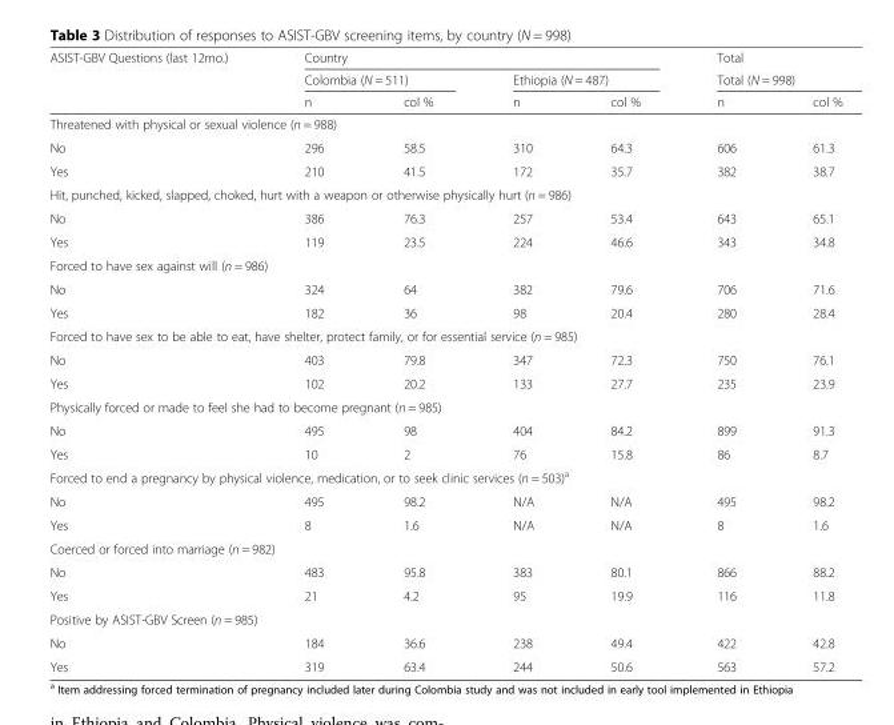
<table><thead><tr><td rowspan="3">ASIST-GBV Questions (last 12mo.)</td><td colspan="4">Country</td><td rowspan="2" colspan="2">Total Total (N = 998)</td></tr><tr><td colspan="2">Colombia (N = 511)</td><td colspan="2">Ethiopia (N = 487)</td></tr><tr><td>n</td><td>col %</td><td>n</td><td>col %</td><td>n</td><td>col %</td></tr></thead><tbody><tr><td colspan="7">Threatened with physical or sexual violence (n = 988)</td></tr><tr><td>No</td><td>296</td><td>58.5</td><td>310</td><td>64.3</td><td>606</td><td>61.3</td></tr><tr><td>Yes</td><td>210</td><td>41.5</td><td>172</td><td>35.7</td><td>382</td><td>38.7</td></tr><tr><td colspan="7">Hit, punched, kicked, slapped, choked, hurt with a weapon or otherwise physically hurt (n = 986)</td></tr><tr><td>No</td><td>386</td><td>76.3</td><td>257</td><td>53.4</td><td>643</td><td>65.1</td></tr><tr><td>Yes</td><td>119</td><td>23.5</td><td>224</td><td>46.6</td><td>343</td><td>34.8</td></tr><tr><td colspan="7">Forced to have sex against will (n = 986)</td></tr><tr><td>No</td><td>324</td><td>64</td><td>382</td><td>79.6</td><td>706</td><td>71.6</td></tr><tr><td>Yes</td><td>182</td><td>36</td><td>98</td><td>20.4</td><td>280</td><td>28.4</td></tr><tr><td colspan="7">Forced to have sex to be able to eat, have shelter, protect family, or for essential service (n = 985)</td></tr><tr><td>No</td><td>403</td><td>79.8</td><td>347</td><td>72.3</td><td>750</td><td>76.1</td></tr><tr><td>Yes</td><td>102</td><td>20.2</td><td>133</td><td>27.7</td><td>235</td><td>23.9</td></tr><tr><td colspan="7">Physically forced or made to feel she had to become pregnant (n = 985)</td></tr><tr><td>No</td><td>495</td><td>98</td><td>404</td><td>84.2</td><td>899</td><td>91.3</td></tr><tr><td>Yes</td><td>10</td><td>2</td><td>76</td><td>15.8</td><td>86</td><td>8.7</td></tr><tr><td colspan="7">Forced to end a pregnancy by physical violence, medication, or to seek clinic services (n = 503)<sup>a</sup></td></tr><tr><td>No</td><td>495</td><td>98.2</td><td>N/A</td><td>N/A</td><td>495</td><td>98.2</td></tr><tr><td>Yes</td><td>8</td><td>1.6</td><td>N/A</td><td>N/A</td><td>8</td><td>1.6</td></tr><tr><td colspan="7">Coerced or forced into marriage (n = 982)</td></tr><tr><td>No</td><td>483</td><td>95.8</td><td>383</td><td>80.1</td><td>866</td><td>88.2</td></tr><tr><td>Yes</td><td>21</td><td>4.2</td><td>95</td><td>19.9</td><td>116</td><td>11.8</td></tr><tr><td colspan="7">Positive by ASIST-GBV Screen (n = 985)</td></tr><tr><td>No</td><td>184</td><td>36.6</td><td>238</td><td>49.4</td><td>422</td><td>42.8</td></tr><tr><td>Yes</td><td>319</td><td>63.4</td><td>244</td><td>50.6</td><td>563</td><td>57.2</td></tr></tbody></table>